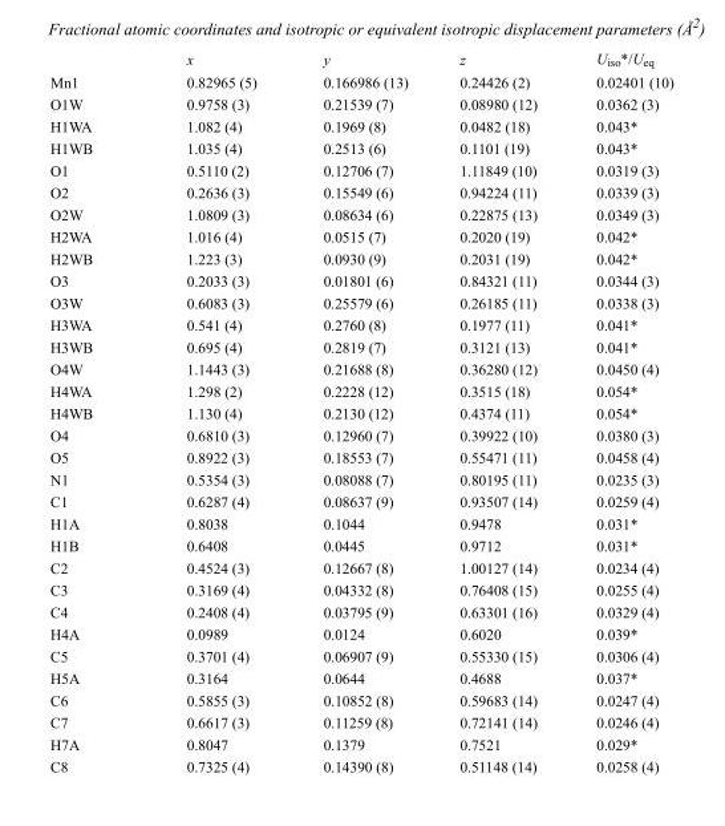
<table><thead><tr><td></td><td>x</td><td>y</td><td>z</td><td>U<sub>iso</sub>*/U<sub>eq</sub></td></tr></thead><tbody><tr><td>Mn1</td><td>0.82965 (5)</td><td>0.166986 (13)</td><td>0.24426 (2)</td><td>0.02401 (10)</td></tr><tr><td>O1W</td><td>0.9758 (3)</td><td>0.21539 (7)</td><td>0.08980 (12)</td><td>0.0362 (3)</td></tr><tr><td>H1WA</td><td>1.082 (4)</td><td>0.1969 (8)</td><td>0.0482 (18)</td><td>0.043*</td></tr><tr><td>H1WB</td><td>1.035 (4)</td><td>0.2513 (6)</td><td>0.1101 (19)</td><td>0.043*</td></tr><tr><td>O1</td><td>0.5110 (2)</td><td>0.12706 (7)</td><td>1.11849 (10)</td><td>0.0319 (3)</td></tr><tr><td>O2</td><td>0.2636 (3)</td><td>0.15549 (6)</td><td>0.94224 (11)</td><td>0.0339 (3)</td></tr><tr><td>O2W</td><td>1.0809 (3)</td><td>0.08634 (6)</td><td>0.22875 (13)</td><td>0.0349 (3)</td></tr><tr><td>H2WA</td><td>1.016 (4)</td><td>0.0515 (7)</td><td>0.2020 (19)</td><td>0.042*</td></tr><tr><td>H2WB</td><td>1.223 (3)</td><td>0.0930 (9)</td><td>0.2031 (19)</td><td>0.042*</td></tr><tr><td>O3</td><td>0.2033 (3)</td><td>0.01801 (6)</td><td>0.84321 (11)</td><td>0.0344 (3)</td></tr><tr><td>O3W</td><td>0.6083 (3)</td><td>0.25579 (6)</td><td>0.26185 (11)</td><td>0.0338 (3)</td></tr><tr><td>H3WA</td><td>0.541 (4)</td><td>0.2760 (8)</td><td>0.1977 (11)</td><td>0.041*</td></tr><tr><td>H3WB</td><td>0.695 (4)</td><td>0.2819 (7)</td><td>0.3121 (13)</td><td>0.041*</td></tr><tr><td>O4W</td><td>1.1443 (3)</td><td>0.21688 (8)</td><td>0.36280 (12)</td><td>0.0450 (4)</td></tr><tr><td>H4WA</td><td>1.298 (2)</td><td>0.2228 (12)</td><td>0.3515 (18)</td><td>0.054*</td></tr><tr><td>H4WB</td><td>1.130 (4)</td><td>0.2130 (12)</td><td>0.4374 (11)</td><td>0.054*</td></tr><tr><td>O4</td><td>0.6810 (3)</td><td>0.12960 (7)</td><td>0.39922 (10)</td><td>0.0380 (3)</td></tr><tr><td>O5</td><td>0.8922 (3)</td><td>0.18553 (7)</td><td>0.55471 (11)</td><td>0.0458 (4)</td></tr><tr><td>N1</td><td>0.5354 (3)</td><td>0.08088 (7)</td><td>0.80195 (11)</td><td>0.0235 (3)</td></tr><tr><td>C1</td><td>0.6287 (4)</td><td>0.08637 (9)</td><td>0.93507 (14)</td><td>0.0259 (4)</td></tr><tr><td>H1A</td><td>0.8038</td><td>0.1044</td><td>0.9478</td><td>0.031*</td></tr><tr><td>H1B</td><td>0.6408</td><td>0.0445</td><td>0.9712</td><td>0.031*</td></tr><tr><td>C2</td><td>0.4524 (3)</td><td>0.12667 (8)</td><td>1.00127 (14)</td><td>0.0234 (4)</td></tr><tr><td>C3</td><td>0.3169 (4)</td><td>0.04332 (8)</td><td>0.76408 (15)</td><td>0.0255 (4)</td></tr><tr><td>C4</td><td>0.2408 (4)</td><td>0.03795 (9)</td><td>0.63301 (16)</td><td>0.0329 (4)</td></tr><tr><td>H4A</td><td>0.0989</td><td>0.0124</td><td>0.6020</td><td>0.039*</td></tr><tr><td>C5</td><td>0.3701 (4)</td><td>0.06907 (9)</td><td>0.55330 (15)</td><td>0.0306 (4)</td></tr><tr><td>H5A</td><td>0.3164</td><td>0.0644</td><td>0.4688</td><td>0.037*</td></tr><tr><td>C6</td><td>0.5855 (3)</td><td>0.10852 (8)</td><td>0.59683 (14)</td><td>0.0247 (4)</td></tr><tr><td>C7</td><td>0.6617 (3)</td><td>0.11259 (8)</td><td>0.72141 (14)</td><td>0.0246 (4)</td></tr><tr><td>H7A</td><td>0.8047</td><td>0.1379</td><td>0.7521</td><td>0.029*</td></tr><tr><td>C8</td><td>0.7325 (4)</td><td>0.14390 (8)</td><td>0.51148 (14)</td><td>0.0258 (4)</td></tr></tbody></table>